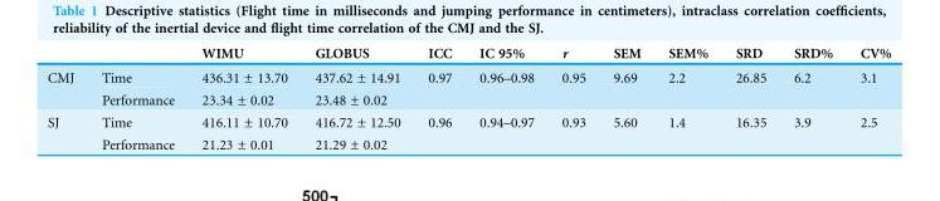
<table><thead><tr><td></td><td></td><td>WIMU</td><td>GLOBUS</td><td>ICC</td><td>IC 95%</td><td>r</td><td>SEM</td><td>SEM%</td><td>SRD</td><td>SRD%</td><td>CV%</td></tr></thead><tbody><tr><td rowspan="2">CMJ</td><td>Time</td><td>436.31 ± 13.70</td><td>437.62 ± 14.91</td><td rowspan="2">0.97</td><td rowspan="2">0.96–0.98</td><td rowspan="2">0.95</td><td rowspan="2">9.69</td><td rowspan="2">2.2</td><td rowspan="2">26.85</td><td rowspan="2">6.2</td><td rowspan="2">3.1</td></tr><tr><td>Performance</td><td>23.34 ± 0.02</td><td>23.48 ± 0.02</td></tr><tr><td rowspan="2">SJ</td><td>Time</td><td>416.11 ± 10.70</td><td>416.72 ± 12.50</td><td rowspan="2">0.96</td><td rowspan="2">0.94–0.97</td><td rowspan="2">0.93</td><td rowspan="2">5.60</td><td rowspan="2">1.4</td><td rowspan="2">16.35</td><td rowspan="2">3.9</td><td rowspan="2">2.5</td></tr><tr><td>Performance</td><td>21.23 ± 0.01</td><td>21.29 ± 0.02</td></tr></tbody></table>